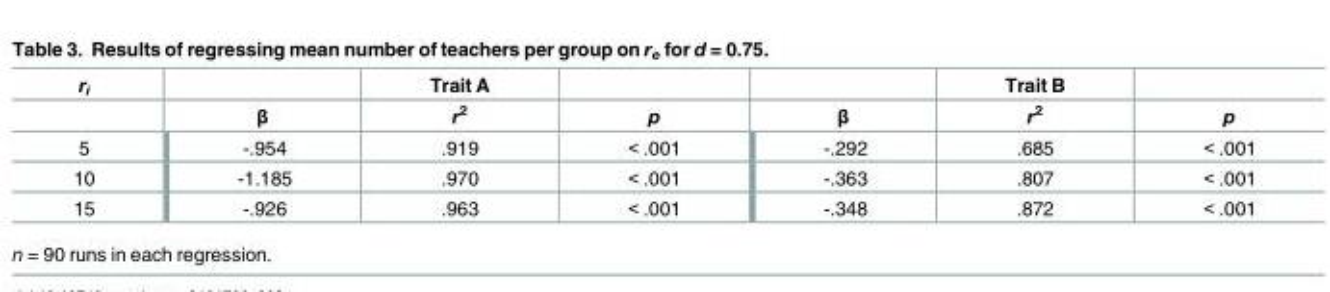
<table><thead><tr><td rowspan="2">r<sub>i</sub></td><td rowspan="2">β</td><td rowspan="2">Trait A r<sup>2</sup></td><td rowspan="2">p</td><td rowspan="2">β</td><td rowspan="2">Trait B r<sup>2</sup></td><td rowspan="2">p</td></tr><tr></tr></thead><tbody><tr><td>5</td><td>-.954</td><td>.919</td><td>&lt; .001</td><td>-.292</td><td>.685</td><td>&lt; .001</td></tr><tr><td>10</td><td>-1.185</td><td>.970</td><td>&lt; .001</td><td>-.363</td><td>.807</td><td>&lt; .001</td></tr><tr><td>15</td><td>-.926</td><td>.963</td><td>&lt; .001</td><td>-.348</td><td>.872</td><td>&lt; .001</td></tr></tbody></table>